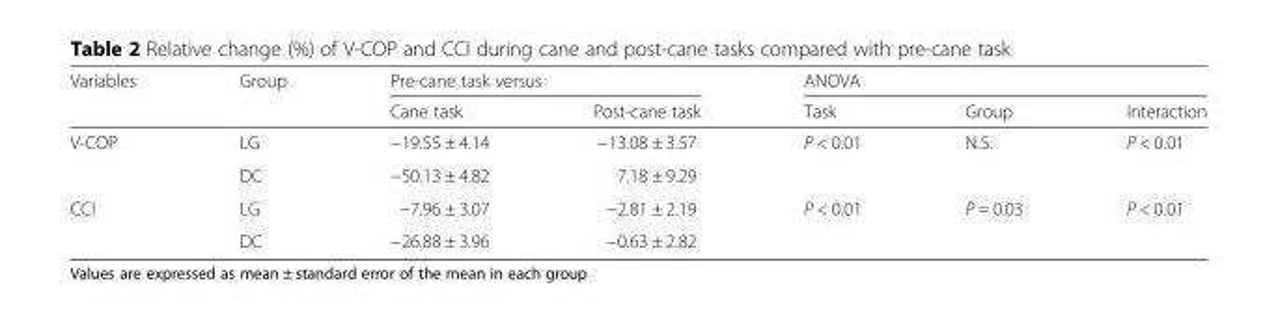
<table><thead><tr><td rowspan="2">Variables</td><td rowspan="2">Group</td><td colspan="2">Pre-cane task versus</td><td colspan="3">ANOVA</td></tr><tr><td>Cane task</td><td>Post-cane task</td><td>Task</td><td>Group</td><td>Interaction</td></tr></thead><tbody><tr><td rowspan="2">V-COP</td><td>LG</td><td>−19.55 ± 4.14</td><td>−13.08 ± 3.57</td><td rowspan="2">P &lt; 0.01</td><td rowspan="2">N.S.</td><td rowspan="2">P &lt; 0.01</td></tr><tr><td>DC</td><td>−50.13 ± 4.82</td><td>7.18 ± 9.29</td></tr><tr><td rowspan="2">CCI</td><td>LG</td><td>−7.96 ± 3.07</td><td>−2.81 ± 2.19</td><td rowspan="2">P &lt; 0.01</td><td rowspan="2">P = 0.03</td><td rowspan="2">P &lt; 0.01</td></tr><tr><td>DC</td><td>−26.88 ± 3.96</td><td>−0.63 ± 2.82</td></tr></tbody></table>